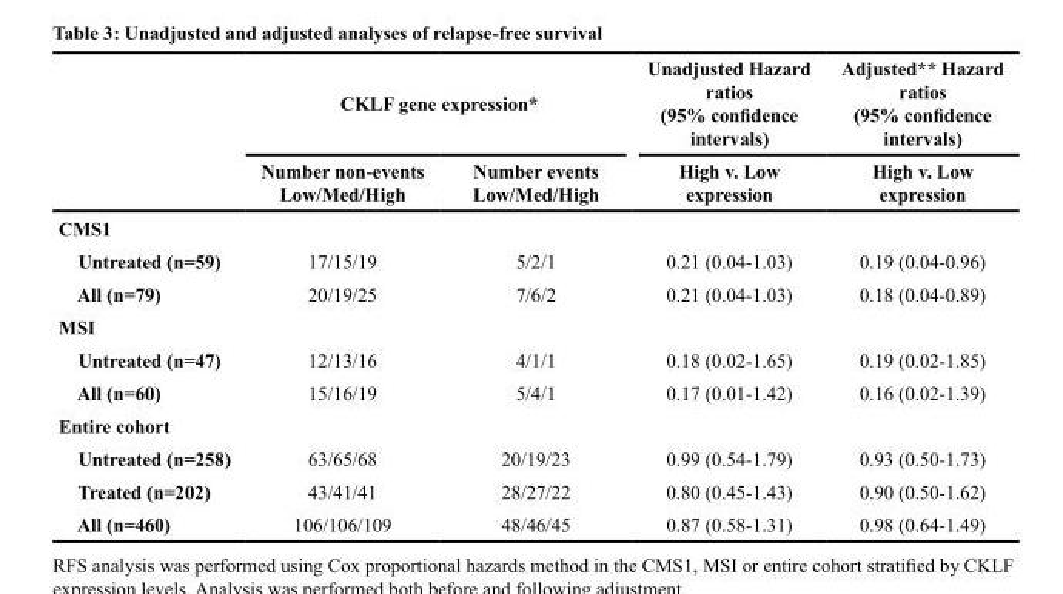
<table><thead><tr><td rowspan="2"></td><td colspan="2">CKLF gene expression*</td><td rowspan="2">Unadjusted Hazard ratios (95% confidence intervals) High v. Low expression</td><td rowspan="2">Adjusted** Hazard ratios (95% confidence intervals) High v. Low expression</td></tr><tr><td>Number non-events Low/Med/High</td><td>Number events Low/Med/High</td></tr></thead><tbody><tr><td colspan="5">CMS1</td></tr><tr><td>Untreated (n=59)</td><td>17/15/19</td><td>5/2/1</td><td>0.21 (0.04-1.03)</td><td>0.19 (0.04-0.96)</td></tr><tr><td>All (n=79)</td><td>20/19/25</td><td>7/6/2</td><td>0.21 (0.04-1.03)</td><td>0.18 (0.04-0.89)</td></tr><tr><td colspan="5">MSI</td></tr><tr><td>Untreated (n=47)</td><td>12/13/16</td><td>4/1/1</td><td>0.18 (0.02-1.65)</td><td>0.19 (0.02-1.85)</td></tr><tr><td>All (n=60)</td><td>15/16/19</td><td>5/4/1</td><td>0.17 (0.01-1.42)</td><td>0.16 (0.02-1.39)</td></tr><tr><td colspan="5">Entire cohort</td></tr><tr><td>Untreated (n=258)</td><td>63/65/68</td><td>20/19/23</td><td>0.99 (0.54-1.79)</td><td>0.93 (0.50-1.73)</td></tr><tr><td>Treated (n=202)</td><td>43/41/41</td><td>28/27/22</td><td>0.80 (0.45-1.43)</td><td>0.90 (0.50-1.62)</td></tr><tr><td>All (n=460)</td><td>106/106/109</td><td>48/46/45</td><td>0.87 (0.58-1.31)</td><td>0.98 (0.64-1.49)</td></tr></tbody></table>